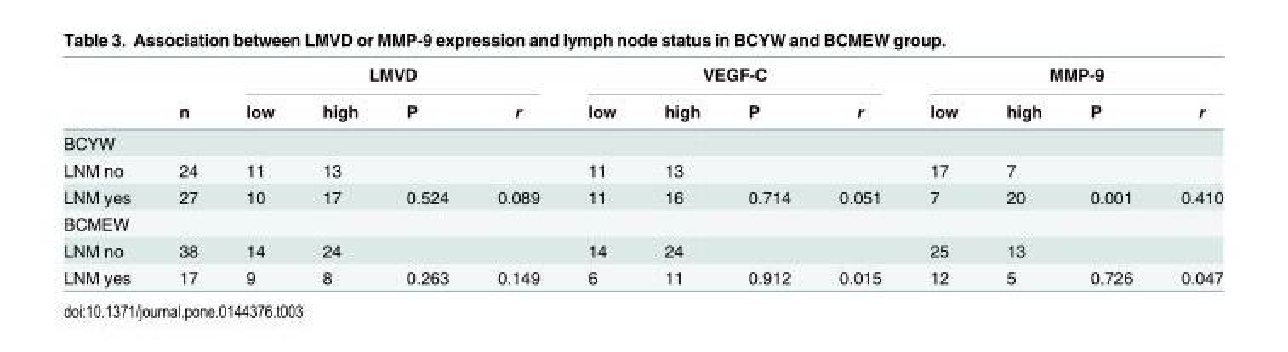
<table><thead><tr><td rowspan="2"></td><td rowspan="2">n</td><td colspan="4">LMVD</td><td colspan="4">VEGF-C</td><td colspan="4">MMP-9</td></tr><tr><td>low</td><td>high</td><td>P</td><td>r</td><td>low</td><td>high</td><td>P</td><td>r</td><td>low</td><td>high</td><td>P</td><td>r</td></tr></thead><tbody><tr><td colspan="14">BCYW</td></tr><tr><td>LNM no</td><td>24</td><td>11</td><td>13</td><td></td><td></td><td>11</td><td>13</td><td></td><td></td><td>17</td><td>7</td><td></td><td></td></tr><tr><td>LNM yes</td><td>27</td><td>10</td><td>17</td><td>0.524</td><td>0.089</td><td>11</td><td>16</td><td>0.714</td><td>0.051</td><td>7</td><td>20</td><td>0.001</td><td>0.410</td></tr><tr><td colspan="14">BCMEW</td></tr><tr><td>LNM no</td><td>38</td><td>14</td><td>24</td><td></td><td></td><td>14</td><td>24</td><td></td><td></td><td>25</td><td>13</td><td></td><td></td></tr><tr><td>LNM yes</td><td>17</td><td>9</td><td>8</td><td>0.263</td><td>0.149</td><td>6</td><td>11</td><td>0.912</td><td>0.015</td><td>12</td><td>5</td><td>0.726</td><td>0.047</td></tr></tbody></table>